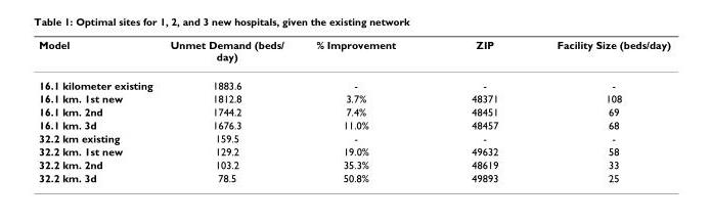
<table><thead><tr><td>Model</td><td>Unmet Demand (beds/ day)</td><td>% Improvement</td><td>ZIP</td><td>Facility Size (beds/day)</td></tr></thead><tbody><tr><td>16.1 kilometer existing</td><td>1883.6</td><td>-</td><td>-</td><td>-</td></tr><tr><td>16.1 km. 1st new</td><td>1812.8</td><td>3.7%</td><td>48371</td><td>108</td></tr><tr><td>16.1 km. 2nd</td><td>1744.2</td><td>7.4%</td><td>48451</td><td>69</td></tr><tr><td>16.1 km. 3d</td><td>1676.3</td><td>11.0%</td><td>48457</td><td>68</td></tr><tr><td>32.2 km existing</td><td>159.5</td><td>-</td><td>-</td><td>-</td></tr><tr><td>32.2 km. 1st new</td><td>129.2</td><td>19.0%</td><td>49632</td><td>58</td></tr><tr><td>32.2 km. 2nd</td><td>103.2</td><td>35.3%</td><td>48619</td><td>33</td></tr><tr><td>32.2 km. 3d</td><td>78.5</td><td>50.8%</td><td>49893</td><td>25</td></tr></tbody></table>